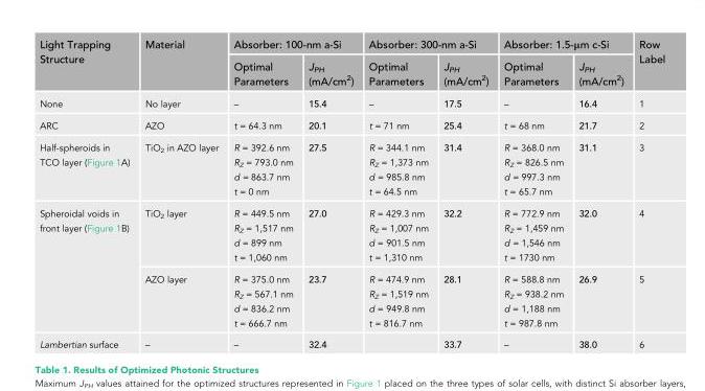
<table><thead><tr><td rowspan="2">Light Trapping Structure</td><td rowspan="2">Material</td><td colspan="2">Absorber: 100-nm a-Si</td><td colspan="2">Absorber: 300-nm a-Si</td><td colspan="2">Absorber: 1.5-μm c-Si</td><td rowspan="2">Row Label</td></tr><tr><td>Optimal Parameters</td><td>J<sub>PH</sub> (mA/cm<sup>2</sup>)</td><td>Optimal Parameters</td><td>J<sub>PH</sub> (mA/cm<sup>2</sup>)</td><td>Optimal Parameters</td><td>J<sub>PH</sub> (mA/cm<sup>2</sup>)</td></tr></thead><tbody><tr><td>None</td><td>No layer</td><td>–</td><td>15.4</td><td>–</td><td>17.5</td><td>–</td><td>16.4</td><td>1</td></tr><tr><td>ARC</td><td>AZO</td><td>t = 64.3 nm</td><td>20.1</td><td>t = 71 nm</td><td>25.4</td><td>t = 68 nm</td><td>21.7</td><td>2</td></tr><tr><td>Half-spheroids in TCO layer (Figure 1A)</td><td>TiO<sub>2</sub> in AZO layer</td><td>R = 392.6 nm R<sub>Z</sub> = 793.0 nm d = 863.7 nm t = 0 nm</td><td>27.5</td><td>R = 344.1 nm R<sub>Z</sub> = 1,373 nm d = 985.8 nm t = 64.5 nm</td><td>31.4</td><td>R = 368.0 nm R<sub>Z</sub> = 826.5 nm d = 997.3 nm t = 65.7 nm</td><td>31.1</td><td>3</td></tr><tr><td rowspan="2">Spheroidal voids in front layer (Figure 1B)</td><td>TiO<sub>2</sub> layer</td><td>R = 449.5 nm R<sub>Z</sub> = 1,517 nm d = 899 nm t = 1,060 nm</td><td>27.0</td><td>R = 429.3 nm R<sub>Z</sub> = 1,007 nm d = 901.5 nm t = 1,310 nm</td><td>32.2</td><td>R = 772.9 nm R<sub>Z</sub> = 1,459 nm d = 1,546 nm t = 1730 nm</td><td>32.0</td><td>4</td></tr><tr><td>AZO layer</td><td>R = 375.0 nm R<sub>Z</sub> = 567.1 nm d = 836.2 nm t = 666.7 nm</td><td>23.7</td><td>R = 474.9 nm R<sub>Z</sub> = 1,519 nm d = 949.8 nm t = 816.7 nm</td><td>28.1</td><td>R = 588.8 nm R<sub>Z</sub> = 938.2 nm d = 1,188 nm t = 987.8 nm</td><td>26.9</td><td>5</td></tr><tr><td>Lambertian surface</td><td>–</td><td>–</td><td>32.4</td><td></td><td>33.7</td><td>–</td><td>38.0</td><td>6</td></tr></tbody></table>